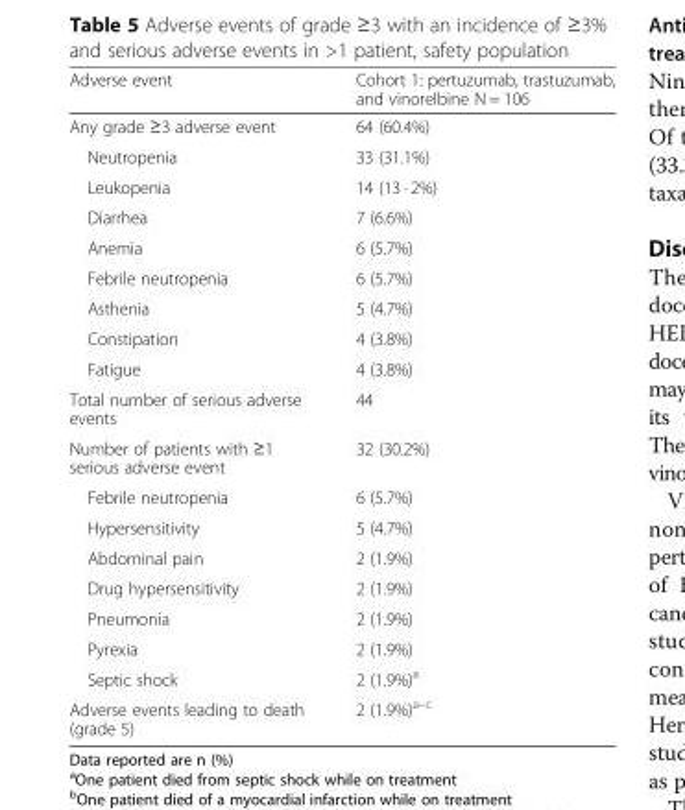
<table><thead><tr><td>Adverse event</td><td>Cohort 1: pertuzumab, trastuzumab, and vinorelbine N = 106</td></tr></thead><tbody><tr><td>Any grade ≥3 adverse event</td><td>64 (60.4%)</td></tr><tr><td>Neutropenia</td><td>33 (31.1%)</td></tr><tr><td>Leukopenia</td><td>14 (13 · 2%)</td></tr><tr><td>Diarrhea</td><td>7 (6.6%)</td></tr><tr><td>Anemia</td><td>6 (5.7%)</td></tr><tr><td>Febrile neutropenia</td><td>6 (5.7%)</td></tr><tr><td>Asthenia</td><td>5 (4.7%)</td></tr><tr><td>Constipation</td><td>4 (3.8%)</td></tr><tr><td>Fatigue</td><td>4 (3.8%)</td></tr><tr><td>Total number of serious adverse events</td><td>44</td></tr><tr><td>Number of patients with ≥1 serious adverse event</td><td>32 (30.2%)</td></tr><tr><td>Febrile neutropenia</td><td>6 (5.7%)</td></tr><tr><td>Hypersensitivity</td><td>5 (4.7%)</td></tr><tr><td>Abdominal pain</td><td>2 (1.9%)</td></tr><tr><td>Drug hypersensitivity</td><td>2 (1.9%)</td></tr><tr><td>Pneumonia</td><td>2 (1.9%)</td></tr><tr><td>Pyrexia</td><td>2 (1.9%)</td></tr><tr><td>Septic shock</td><td>2 (1.9%)<sup>a</sup></td></tr><tr><td>Adverse events leading to death (grade 5)</td><td>2 (1.9%)<sup>a–c</sup></td></tr></tbody></table>